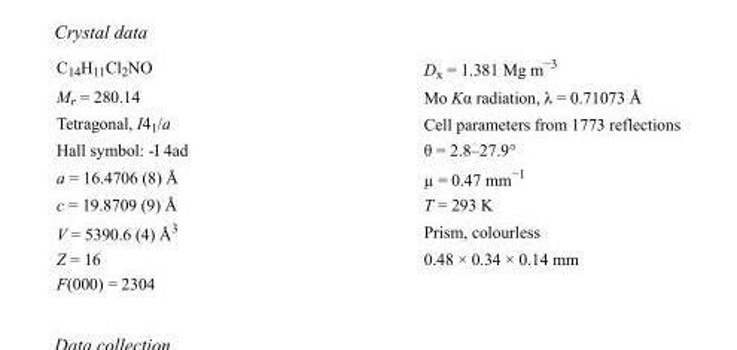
<table><tbody><tr><td>C<sub>14</sub>H<sub>11</sub>Cl<sub>2</sub>NO</td><td>D<sub>x</sub> = 1.381 Mg m<sup>−3</sup></td></tr><tr><td>M<sub>r</sub> = 280.14</td><td>Mo Kα radiation, λ = 0.71073 Å</td></tr><tr><td>Tetragonal, I4<sub>1</sub>/a</td><td>Cell parameters from 1773 reflections</td></tr><tr><td>Hall symbol: -I 4ad</td><td>θ = 2.8–27.9°</td></tr><tr><td>a = 16.4706 (8) Å</td><td>µ = 0.47 mm<sup>−1</sup></td></tr><tr><td>c = 19.8709 (9) Å</td><td>T = 293 K</td></tr><tr><td>V = 5390.6 (4) Å<sup>3</sup></td><td>Prism, colourless</td></tr><tr><td>Z = 16</td><td>0.48 × 0.34 × 0.14 mm</td></tr><tr><td>F(000) = 2304</td><td></td></tr></tbody></table>